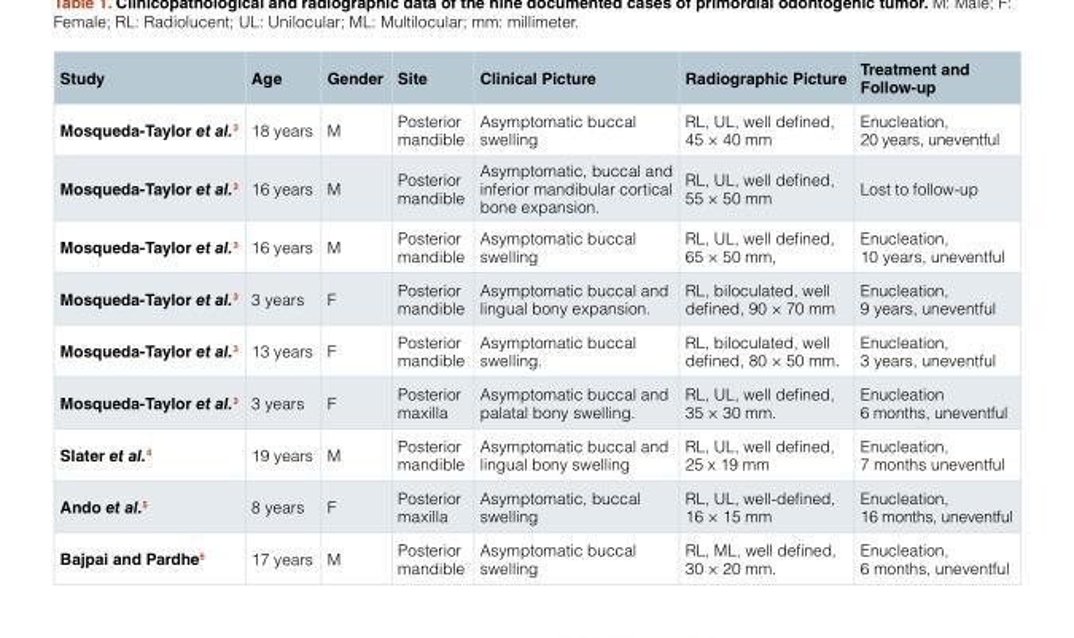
<table><thead><tr><td>Study</td><td>Age</td><td>Gender</td><td>Site</td><td>Clinical Picture</td><td>Radiographic Picture</td><td>Treatment and Follow-up</td></tr></thead><tbody><tr><td>Mosqueda-Taylor et al.<sup>3</sup></td><td>18 years</td><td>M</td><td>Posterior mandible</td><td>Asymptomatic buccal swelling</td><td>RL, UL, well defined, 45 × 40 mm</td><td>Enucleation, 20 years, uneventful</td></tr><tr><td>Mosqueda-Taylor et al.<sup>3</sup></td><td>16 years</td><td>M</td><td>Posterior mandible</td><td>Asymptomatic, buccal and inferior mandibular cortical bone expansion.</td><td>RL, UL, well defined, 55 × 50 mm</td><td>Lost to follow-up</td></tr><tr><td>Mosqueda-Taylor et al.<sup>3</sup></td><td>16 years</td><td>M</td><td>Posterior mandible</td><td>Asymptomatic buccal swelling</td><td>RL, UL, well defined, 65 × 50 mm,</td><td>Enucleation, 10 years, uneventful</td></tr><tr><td>Mosqueda-Taylor et al.<sup>3</sup></td><td>3 years</td><td>F</td><td>Posterior mandible</td><td>Asymptomatic buccal and lingual bony expansion.</td><td>RL, biloculated, well defined, 90 × 70 mm</td><td>Enucleation, 9 years, uneventful</td></tr><tr><td>Mosqueda-Taylor et al.<sup>3</sup></td><td>13 years</td><td>F</td><td>Posterior mandible</td><td>Asymptomatic buccal swelling.</td><td>RL, biloculated, well defined, 80 × 50 mm.</td><td>Enucleation, 3 years, uneventful</td></tr><tr><td>Mosqueda-Taylor et al.<sup>3</sup></td><td>3 years</td><td>F</td><td>Posterior maxilla</td><td>Asymptomatic buccal and palatal bony swelling.</td><td>RL, UL, well defined, 35 × 30 mm.</td><td>Enucleation 6 months, uneventful</td></tr><tr><td>Slater et al.<sup>4</sup></td><td>19 years</td><td>M</td><td>Posterior mandible</td><td>Asymptomatic buccal and lingual bony swelling</td><td>RL, UL, well defined, 25 x 19 mm</td><td>Enucleation, 7 months uneventful</td></tr><tr><td>Ando et al.<sup>5</sup></td><td>8 years</td><td>F</td><td>Posterior maxilla</td><td>Asymptomatic, buccal swelling</td><td>RL, UL, well-defined, 16 × 15 mm</td><td>Enucleation, 16 months, uneventful</td></tr><tr><td>Bajpai and Pardhe<sup>6</sup></td><td>17 years</td><td>M</td><td>Posterior mandible</td><td>Asymptomatic buccal swelling</td><td>RL, ML, well defined, 30 × 20 mm.</td><td>Enucleation, 6 months, uneventful</td></tr></tbody></table>